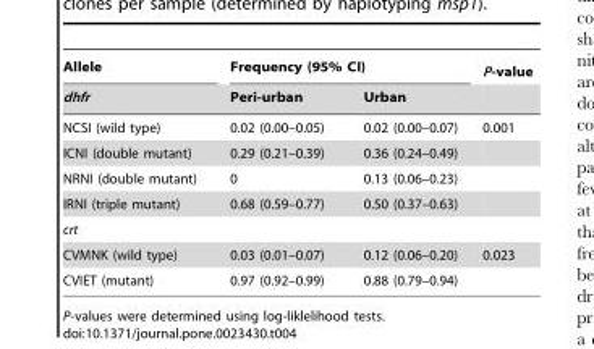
<table><thead><tr><td rowspan="2">Allele dhfr</td><td colspan="2">Frequency (95% CI)</td><td rowspan="2">P-value</td></tr><tr><td>Peri-urban</td><td>Urban</td></tr></thead><tbody><tr><td>NCSI (wild type)</td><td>0.02 (0.00–0.05)</td><td>0.02 (0.00–0.07)</td><td>0.001</td></tr><tr><td>ICNI (double mutant)</td><td>0.29 (0.21–0.39)</td><td>0.36 (0.24–0.49)</td><td></td></tr><tr><td>NRNI (double mutant)</td><td>0</td><td>0.13 (0.06–0.23)</td><td></td></tr><tr><td>IRNI (triple mutant)</td><td>0.68 (0.59–0.77)</td><td>0.50 (0.37–0.63)</td><td></td></tr><tr><td colspan="4">crt</td></tr><tr><td>CVMNK (wild type)</td><td>0.03 (0.01–0.07)</td><td>0.12 (0.06–0.20)</td><td>0.023</td></tr><tr><td>CVIET (mutant)</td><td>0.97 (0.92–0.99)</td><td>0.88 (0.79–0.94)</td><td></td></tr></tbody></table>